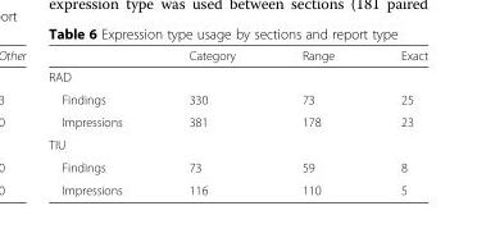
<table><thead><tr><td></td><td>Category</td><td>Range</td><td>Exact</td></tr></thead><tbody><tr><td colspan="4">RAD</td></tr><tr><td>Findings</td><td>330</td><td>73</td><td>25</td></tr><tr><td>Impressions</td><td>381</td><td>178</td><td>23</td></tr><tr><td colspan="4">TIU</td></tr><tr><td>Findings</td><td>73</td><td>59</td><td>8</td></tr><tr><td>Impressions</td><td>116</td><td>110</td><td>5</td></tr></tbody></table>